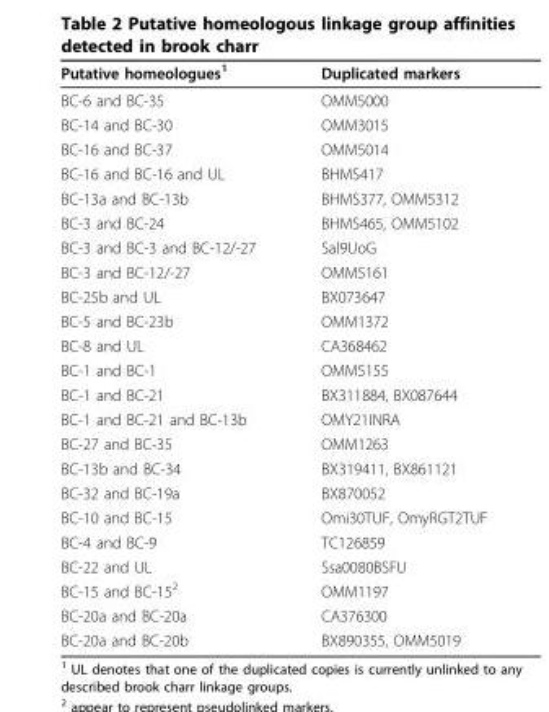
<table><thead><tr><td>Putative homeologues<sup>1</sup></td><td>Duplicated markers</td></tr></thead><tbody><tr><td>BC-6 and BC-35</td><td>OMM5000</td></tr><tr><td>BC-14 and BC-30</td><td>OMM3015</td></tr><tr><td>BC-16 and BC-37</td><td>OMM5014</td></tr><tr><td>BC-16 and BC-16 and UL</td><td>BHMS417</td></tr><tr><td>BC-13a and BC-13b</td><td>BHMS377, OMM5312</td></tr><tr><td>BC-3 and BC-24</td><td>BHMS465, OMM5102</td></tr><tr><td>BC-3 and BC-3 and BC-12/-27</td><td>Sal9UoG</td></tr><tr><td>BC-3 and BC-12/-27</td><td>OMM5161</td></tr><tr><td>BC-25b and UL</td><td>BX073647</td></tr><tr><td>BC-5 and BC-23b</td><td>OMM1372</td></tr><tr><td>BC-8 and UL</td><td>CA368462</td></tr><tr><td>BC-1 and BC-1</td><td>OMM5155</td></tr><tr><td>BC-1 and BC-21</td><td>BX311884, BX087644</td></tr><tr><td>BC-1 and BC-21 and BC-13b</td><td>OMY21INRA</td></tr><tr><td>BC-27 and BC-35</td><td>OMM1263</td></tr><tr><td>BC-13b and BC-34</td><td>BX319411, BX861121</td></tr><tr><td>BC-32 and BC-19a</td><td>BX870052</td></tr><tr><td>BC-10 and BC-15</td><td>Omi30TUF, OmyRGT2TUF</td></tr><tr><td>BC-4 and BC-9</td><td>TC126859</td></tr><tr><td>BC-22 and UL</td><td>Ssa0080BSFU</td></tr><tr><td>BC-15 and BC-15<sup>2</sup></td><td>OMM1197</td></tr><tr><td>BC-20a and BC-20a</td><td>CA376300</td></tr><tr><td>BC-20a and BC-20b</td><td>BX890355, OMM5019</td></tr></tbody></table>